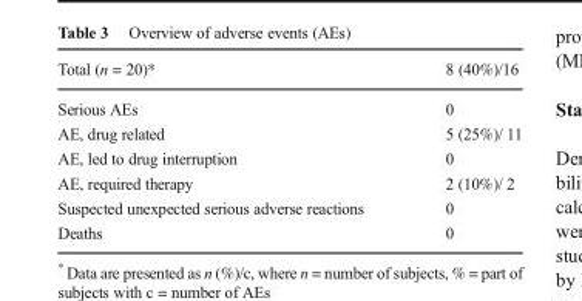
<table><thead><tr><td>Total (n = 20)*</td><td>8 (40%)/16</td></tr></thead><tbody><tr><td>Serious AEs</td><td>0</td></tr><tr><td>AE, drug related</td><td>5 (25%)/ 11</td></tr><tr><td>AE, led to drug interruption</td><td>0</td></tr><tr><td>AE, required therapy</td><td>2 (10%)/ 2</td></tr><tr><td>Suspected unexpected serious adverse reactions</td><td>0</td></tr><tr><td>Deaths</td><td>0</td></tr></tbody></table>